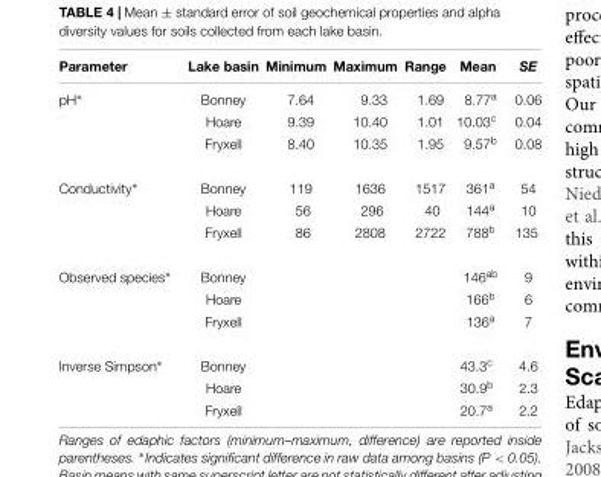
<table><thead><tr><td>Parameter</td><td>Lake basin</td><td>Minimum</td><td>Maximum</td><td>Range</td><td>Mean</td><td>SE</td></tr></thead><tbody><tr><td rowspan="3">pH∗</td><td>Bonney</td><td>7.64</td><td>9.33</td><td>1.69</td><td>8.77<sup>a</sup></td><td>0.06</td></tr><tr><td>Hoare</td><td>9.39</td><td>10.40</td><td>1.01</td><td>10.03<sup>c</sup></td><td>0.04</td></tr><tr><td>Fryxell</td><td>8.40</td><td>10.35</td><td>1.95</td><td>9.57<sup>b</sup></td><td>0.08</td></tr><tr><td rowspan="3">Conductivity∗</td><td>Bonney</td><td>119</td><td>1636</td><td>1517</td><td>361<sup>a</sup></td><td>54</td></tr><tr><td>Hoare</td><td>56</td><td>296</td><td>40</td><td>144<sup>a</sup></td><td>10</td></tr><tr><td>Fryxell</td><td>86</td><td>2808</td><td>2722</td><td>788<sup>b</sup></td><td>135</td></tr><tr><td rowspan="3">Observed species∗</td><td>Bonney</td><td></td><td></td><td></td><td>146<sup>ab</sup></td><td>9</td></tr><tr><td>Hoare</td><td></td><td></td><td></td><td>166<sup>b</sup></td><td>6</td></tr><tr><td>Fryxell</td><td></td><td></td><td></td><td>136<sup>a</sup></td><td>7</td></tr><tr><td rowspan="3">Inverse Simpson∗</td><td>Bonney</td><td></td><td></td><td></td><td>43.3<sup>c</sup></td><td>4.6</td></tr><tr><td>Hoare</td><td></td><td></td><td></td><td>30.9<sup>b</sup></td><td>2.3</td></tr><tr><td>Fryxell</td><td></td><td></td><td></td><td>20.7<sup>a</sup></td><td>2.2</td></tr></tbody></table>